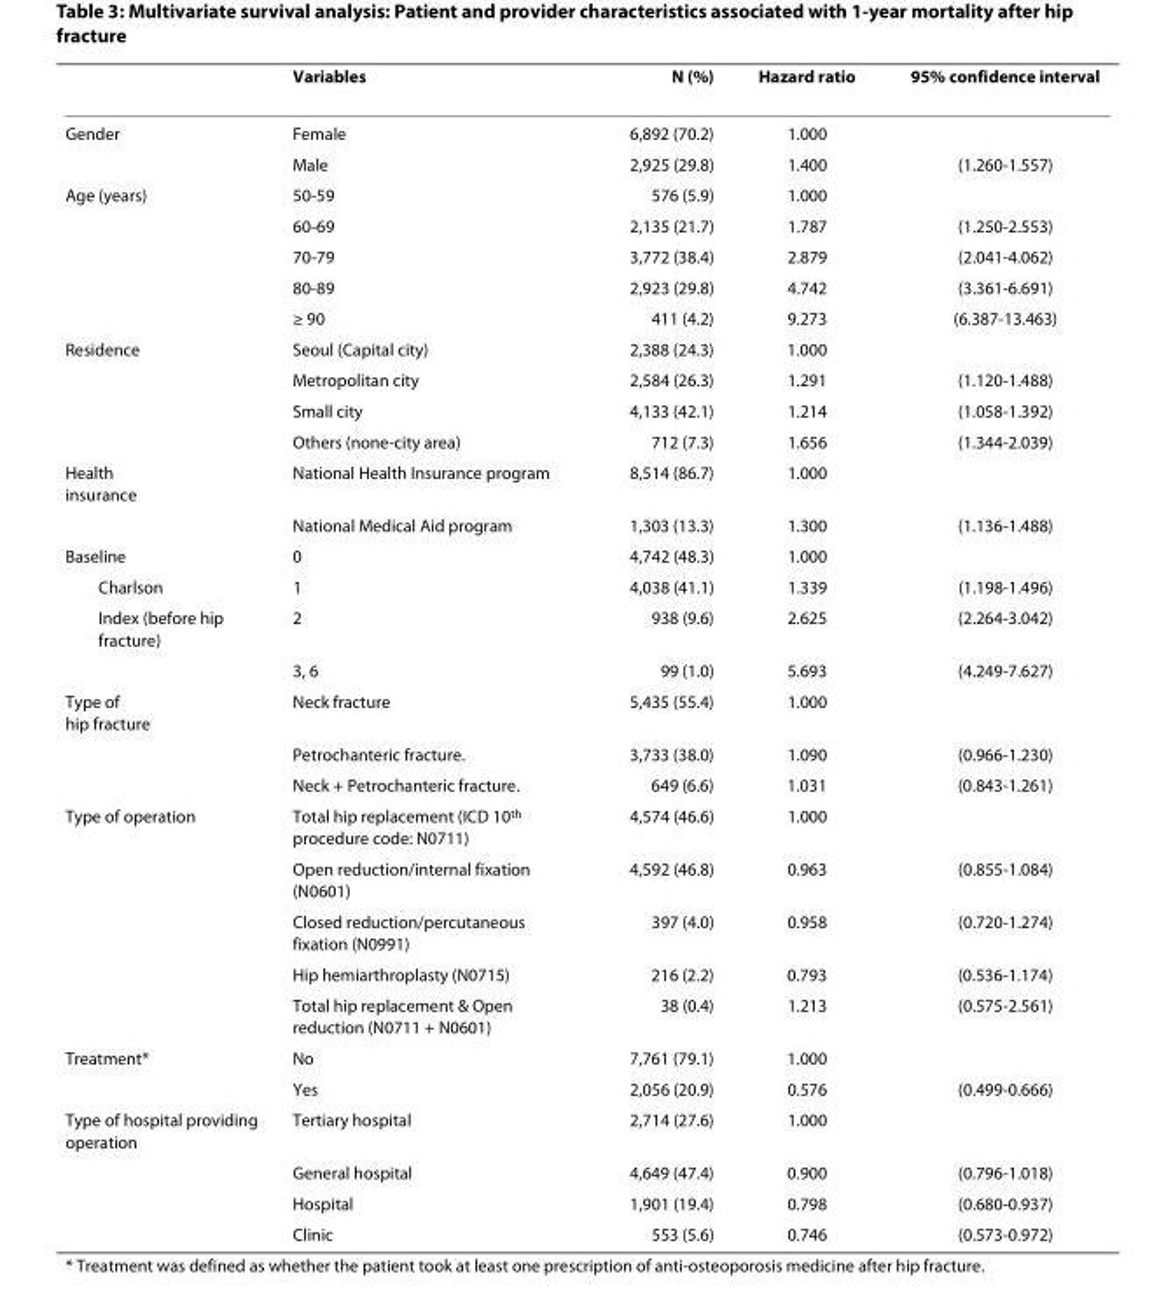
<table><thead><tr><td></td><td>Variables</td><td>N (%)</td><td>Hazard ratio</td><td>95% confidence interval</td></tr></thead><tbody><tr><td rowspan="2">Gender</td><td>Female</td><td>6,892 (70.2)</td><td>1.000</td><td></td></tr><tr><td>Male</td><td>2,925 (29.8)</td><td>1.400</td><td>(1.260-1.557)</td></tr><tr><td rowspan="5">Age (years)</td><td>50-59</td><td>576 (5.9)</td><td>1.000</td><td></td></tr><tr><td>60-69</td><td>2,135 (21.7)</td><td>1.787</td><td>(1.250-2.553)</td></tr><tr><td>70-79</td><td>3,772 (38.4)</td><td>2.879</td><td>(2.041-4.062)</td></tr><tr><td>80-89</td><td>2,923 (29.8)</td><td>4.742</td><td>(3.361-6.691)</td></tr><tr><td>≥ 90</td><td>411 (4.2)</td><td>9.273</td><td>(6.387-13.463)</td></tr><tr><td rowspan="4">Residence</td><td>Seoul (Capital city)</td><td>2,388 (24.3)</td><td>1.000</td><td></td></tr><tr><td>Metropolitan city</td><td>2,584 (26.3)</td><td>1.291</td><td>(1.120-1.488)</td></tr><tr><td>Small city</td><td>4,133 (42.1)</td><td>1.214</td><td>(1.058-1.392)</td></tr><tr><td>Others (none-city area)</td><td>712 (7.3)</td><td>1.656</td><td>(1.344-2.039)</td></tr><tr><td rowspan="2">Health insurance</td><td>National Health Insurance program</td><td>8,514 (86.7)</td><td>1.000</td><td></td></tr><tr><td>National Medical Aid program</td><td>1,303 (13.3)</td><td>1.300</td><td>(1.136-1.488)</td></tr><tr><td>Baseline</td><td>0</td><td>4,742 (48.3)</td><td>1.000</td><td></td></tr><tr><td>Charlson</td><td>1</td><td>4,038 (41.1)</td><td>1.339</td><td>(1.198-1.496)</td></tr><tr><td rowspan="2">Index (before hip fracture)</td><td>2</td><td>938 (9.6)</td><td>2.625</td><td>(2.264-3.042)</td></tr><tr><td>3, 6</td><td>99 (1.0)</td><td>5.693</td><td>(4.249-7.627)</td></tr><tr><td rowspan="3">Type of hip fracture</td><td>Neck fracture</td><td>5,435 (55.4)</td><td>1.000</td><td></td></tr><tr><td>Petrochanteric fracture.</td><td>3,733 (38.0)</td><td>1.090</td><td>(0.966-1.230)</td></tr><tr><td>Neck + Petrochanteric fracture.</td><td>649 (6.6)</td><td>1.031</td><td>(0.843-1.261)</td></tr><tr><td rowspan="5">Type of operation</td><td>Total hip replacement (ICD 10<sup>th</sup> procedure code: N0711)</td><td>4,574 (46.6)</td><td>1.000</td><td></td></tr><tr><td>Open reduction/internal fixation (N0601)</td><td>4,592 (46.8)</td><td>0.963</td><td>(0.855-1.084)</td></tr><tr><td>Closed reduction/percutaneous fixation (N0991)</td><td>397 (4.0)</td><td>0.958</td><td>(0.720-1.274)</td></tr><tr><td>Hip hemiarthroplasty (N0715)</td><td>216 (2.2)</td><td>0.793</td><td>(0.536-1.174)</td></tr><tr><td>Total hip replacement &amp; Open reduction (N0711 + N0601)</td><td>38 (0.4)</td><td>1.213</td><td>(0.575-2.561)</td></tr><tr><td rowspan="2">Treatment*</td><td>No</td><td>7,761 (79.1)</td><td>1.000</td><td></td></tr><tr><td>Yes</td><td>2,056 (20.9)</td><td>0.576</td><td>(0.499-0.666)</td></tr><tr><td rowspan="4">Type of hospital providing operation</td><td>Tertiary hospital</td><td>2,714 (27.6)</td><td>1.000</td><td></td></tr><tr><td>General hospital</td><td>4,649 (47.4)</td><td>0.900</td><td>(0.796-1.018)</td></tr><tr><td>Hospital</td><td>1,901 (19.4)</td><td>0.798</td><td>(0.680-0.937)</td></tr><tr><td>Clinic</td><td>553 (5.6)</td><td>0.746</td><td>(0.573-0.972)</td></tr></tbody></table>